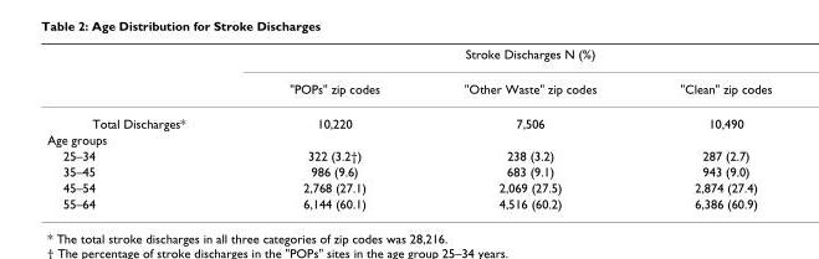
<table><thead><tr><td rowspan="2"></td><td colspan="3">Stroke Discharges N (%)</td></tr><tr><td>&quot;POPs&quot; zip codes</td><td>&quot;Other Waste&quot; zip codes</td><td>&quot;Clean&quot; zip codes</td></tr></thead><tbody><tr><td>Total Discharges*</td><td>10,220</td><td>7,506</td><td>10,490</td></tr><tr><td colspan="4">Age groups</td></tr><tr><td>25–34</td><td>322 (3.2†)</td><td>238 (3.2)</td><td>287 (2.7)</td></tr><tr><td>35–45</td><td>986 (9.6)</td><td>683 (9.1)</td><td>943 (9.0)</td></tr><tr><td>45–54</td><td>2,768 (27.1)</td><td>2,069 (27.5)</td><td>2,874 (27.4)</td></tr><tr><td>55–64</td><td>6,144 (60.1)</td><td>4,516 (60.2)</td><td>6,386 (60.9)</td></tr></tbody></table>